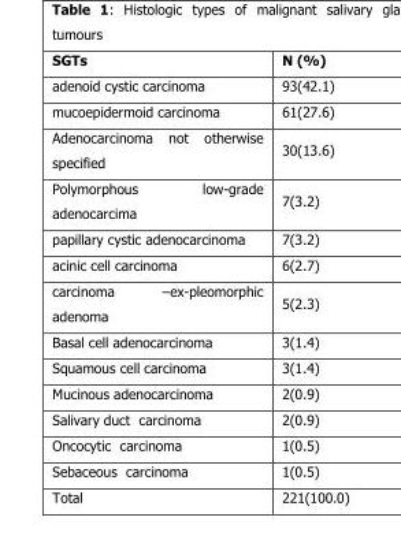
<table><thead><tr><td>SGTs</td><td>N (%)</td></tr></thead><tbody><tr><td>adenoid cystic carcinoma</td><td>93(42.1)</td></tr><tr><td>mucoepidermoid carcinoma</td><td>61(27.6)</td></tr><tr><td>Adenocarcinoma not otherwise specified</td><td>30(13.6)</td></tr><tr><td>Polymorphous low-grade adenocarcima</td><td>7(3.2)</td></tr><tr><td>papillary cystic adenocarcinoma</td><td>7(3.2)</td></tr><tr><td>acinic cell carcinoma</td><td>6(2.7)</td></tr><tr><td>carcinoma –ex-pleomorphic adenoma</td><td>5(2.3)</td></tr><tr><td>Basal cell adenocarcinoma</td><td>3(1.4)</td></tr><tr><td>Squamous cell carcinoma</td><td>3(1.4)</td></tr><tr><td>Mucinous adenocarcinoma</td><td>2(0.9)</td></tr><tr><td>Salivary duct carcinoma</td><td>2(0.9)</td></tr><tr><td>Oncocytic carcinoma</td><td>1(0.5)</td></tr><tr><td>Sebaceous carcinoma</td><td>1(0.5)</td></tr><tr><td>Total</td><td>221(100.0)</td></tr></tbody></table>